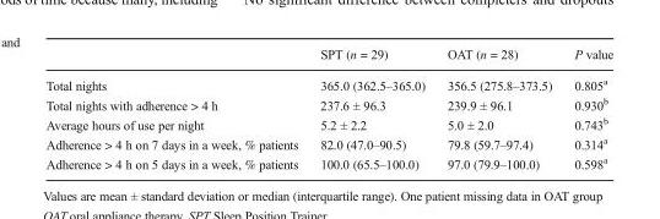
<table><thead><tr><td></td><td>SPT (n = 29)</td><td>OAT (n = 28)</td><td>P value</td></tr></thead><tbody><tr><td>Total nights</td><td>365.0 (362.5–365.0)</td><td>356.5 (275.8–373.5)</td><td>0.805<sup>a</sup></td></tr><tr><td>Total nights with adherence &gt; 4 h</td><td>237.6 ± 96.3</td><td>239.9 ± 96.1</td><td>0.930<sup>b</sup></td></tr><tr><td>Average hours of use per night</td><td>5.2 ± 2.2</td><td>5.0 ± 2.0</td><td>0.743<sup>b</sup></td></tr><tr><td>Adherence &gt; 4 h on 7 days in a week, % patients</td><td>82.0 (47.0–90.5)</td><td>79.8 (59.7–97.4)</td><td>0.314<sup>a</sup></td></tr><tr><td>Adherence &gt; 4 h on 5 days in a week, % patients</td><td>100.0 (65.5–100.0)</td><td>97.0 (79.9–100.0)</td><td>0.598<sup>a</sup></td></tr></tbody></table>